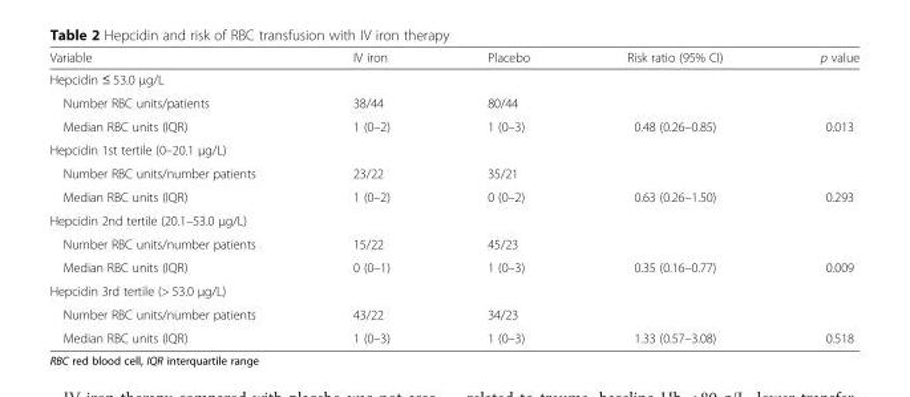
<table><thead><tr><td>Variable</td><td>IV iron</td><td>Placebo</td><td>Risk ratio (95% CI)</td><td>p value</td></tr></thead><tbody><tr><td colspan="5">Hepcidin ≤ 53.0 μg/L</td></tr><tr><td>Number RBC units/patients</td><td>38/44</td><td>80/44</td><td></td><td></td></tr><tr><td>Median RBC units (IQR)</td><td>1 (0–2)</td><td>1 (0–3)</td><td>0.48 (0.26–0.85)</td><td>0.013</td></tr><tr><td colspan="5">Hepcidin 1st tertile (0–20.1 μg/L)</td></tr><tr><td>Number RBC units/number patients</td><td>23/22</td><td>35/21</td><td></td><td></td></tr><tr><td>Median RBC units (IQR)</td><td>1 (0–2)</td><td>0 (0–2)</td><td>0.63 (0.26–1.50)</td><td>0.293</td></tr><tr><td colspan="5">Hepcidin 2nd tertile (20.1–53.0 μg/L)</td></tr><tr><td>Number RBC units/number patients</td><td>15/22</td><td>45/23</td><td></td><td></td></tr><tr><td>Median RBC units (IQR)</td><td>0 (0–1)</td><td>1 (0–3)</td><td>0.35 (0.16–0.77)</td><td>0.009</td></tr><tr><td colspan="5">Hepcidin 3rd tertile (&gt; 53.0 μg/L)</td></tr><tr><td>Number RBC units/number patients</td><td>43/22</td><td>34/23</td><td></td><td></td></tr><tr><td>Median RBC units (IQR)</td><td>1 (0–3)</td><td>1 (0–3)</td><td>1.33 (0.57–3.08)</td><td>0.518</td></tr></tbody></table>